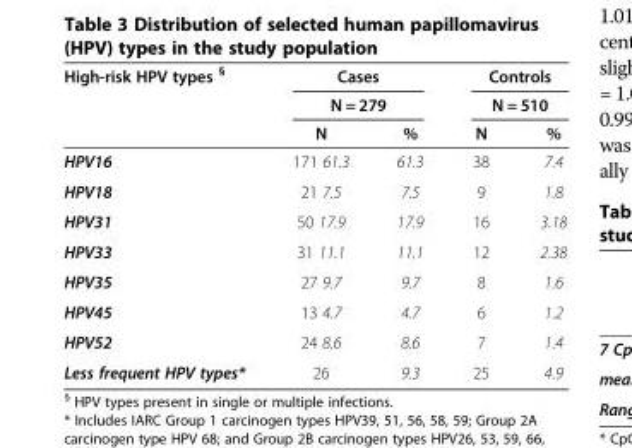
<table><thead><tr><td rowspan="3">High-risk HPV types <sup>§</sup></td><td rowspan="2" colspan="2">Cases N = 279</td><td rowspan="2" colspan="2">Controls N = 510</td></tr><tr></tr><tr><td>N</td><td>%</td><td>N</td><td>%</td></tr></thead><tbody><tr><td>HPV16</td><td>171 61.3</td><td>61.3</td><td>38</td><td>7.4</td></tr><tr><td>HPV18</td><td>21 7.5</td><td>7.5</td><td>9</td><td>1.8</td></tr><tr><td>HPV31</td><td>50 17.9</td><td>17.9</td><td>16</td><td>3.18</td></tr><tr><td>HPV33</td><td>31 11.1</td><td>11.1</td><td>12</td><td>2.38</td></tr><tr><td>HPV35</td><td>27 9.7</td><td>9.7</td><td>8</td><td>1.6</td></tr><tr><td>HPV45</td><td>13 4.7</td><td>4.7</td><td>6</td><td>1.2</td></tr><tr><td>HPV52</td><td>24 8.6</td><td>8.6</td><td>7</td><td>1.4</td></tr><tr><td>Less frequent HPV types*</td><td>26</td><td>9.3</td><td>25</td><td>4.9</td></tr></tbody></table>